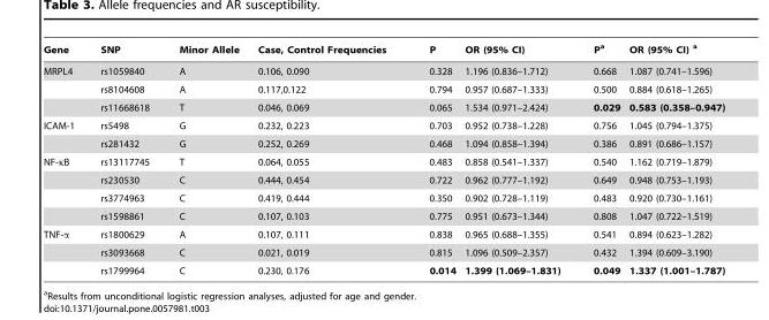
<table><thead><tr><td>Gene</td><td>SNP</td><td>Minor Allele</td><td>Case, Control Frequencies</td><td>P</td><td>OR (95% CI)</td><td>P<sup>a</sup></td><td>OR (95% CI) a</td></tr></thead><tbody><tr><td rowspan="3">MRPL4</td><td>rs1059840</td><td>A</td><td>0.106, 0.090</td><td>0.328</td><td>1.196 (0.836–1.712)</td><td>0.668</td><td>1.087 (0.741–1.596)</td></tr><tr><td>rs8104608</td><td>A</td><td>0.117,0.122</td><td>0.794</td><td>0.957 (0.687–1.333)</td><td>0.500</td><td>0.884 (0.618–1.265)</td></tr><tr><td>rs11668618</td><td>T</td><td>0.046, 0.069</td><td>0.065</td><td>1.534 (0.971–2.424)</td><td>0.029</td><td>0.583 (0.358–0.947)</td></tr><tr><td rowspan="2">ICAM-1</td><td>rs5498</td><td>G</td><td>0.232, 0.223</td><td>0.703</td><td>0.952 (0.738–1.228)</td><td>0.756</td><td>1.045 (0.794–1.375)</td></tr><tr><td>rs281432</td><td>G</td><td>0.252, 0.269</td><td>0.468</td><td>1.094 (0.858–1.394)</td><td>0.386</td><td>0.891 (0.686–1.157)</td></tr><tr><td rowspan="4">NF-κB</td><td>rs13117745</td><td>T</td><td>0.064, 0.055</td><td>0.483</td><td>0.858 (0.541–1.337)</td><td>0.540</td><td>1.162 (0.719–1.879)</td></tr><tr><td>rs230530</td><td>C</td><td>0.444, 0.454</td><td>0.722</td><td>0.962 (0.777–1.192)</td><td>0.649</td><td>0.948 (0.753–1.193)</td></tr><tr><td>rs3774963</td><td>C</td><td>0.419, 0.444</td><td>0.350</td><td>0.902 (0.728–1.119)</td><td>0.483</td><td>0.920 (0.730–1.161)</td></tr><tr><td>rs1598861</td><td>C</td><td>0.107, 0.103</td><td>0.775</td><td>0.951 (0.673–1.344)</td><td>0.808</td><td>1.047 (0.722–1.519)</td></tr><tr><td rowspan="3">TNF-α</td><td>rs1800629</td><td>A</td><td>0.107, 0.111</td><td>0.838</td><td>0.965 (0.688–1.355)</td><td>0.541</td><td>0.894 (0.623–1.282)</td></tr><tr><td>rs3093668</td><td>C</td><td>0.021, 0.019</td><td>0.815</td><td>1.096 (0.509–2.357)</td><td>0.432</td><td>1.394 (0.609–3.190)</td></tr><tr><td>rs1799964</td><td>C</td><td>0.230, 0.176</td><td>0.014</td><td>1.399 (1.069–1.831)</td><td>0.049</td><td>1.337 (1.001–1.787)</td></tr></tbody></table>